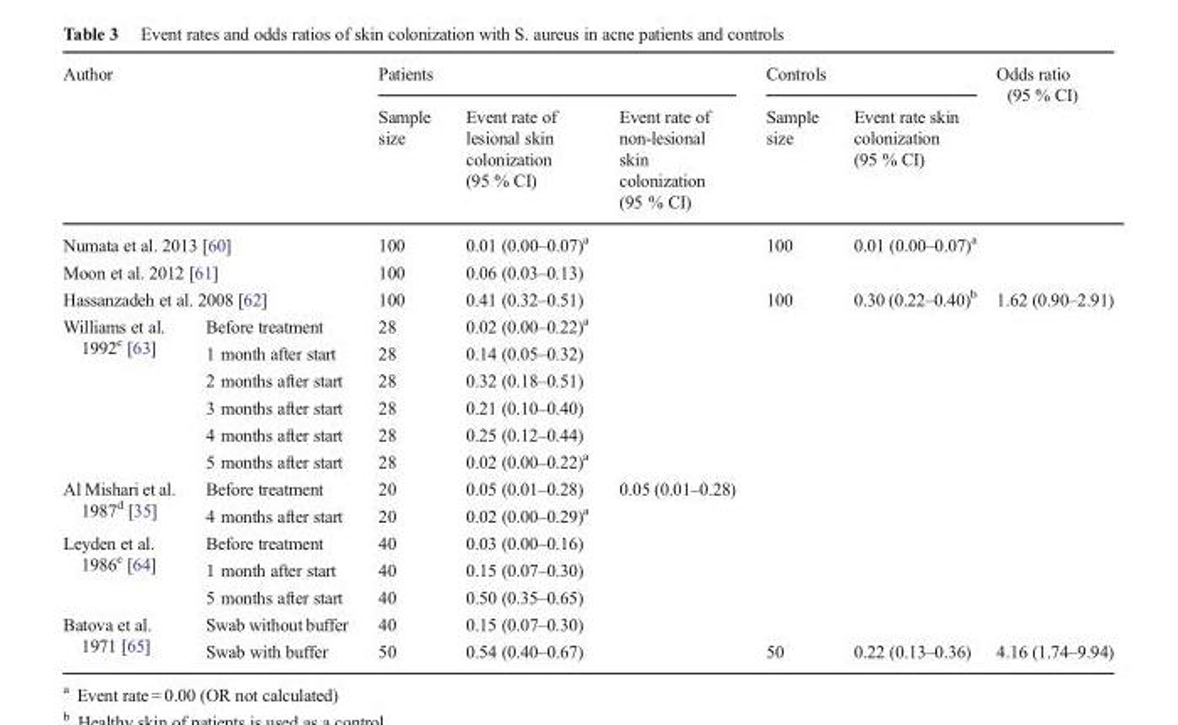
<table><thead><tr><td rowspan="2" colspan="2">Author</td><td colspan="3">Patients</td><td colspan="2">Controls</td><td rowspan="2">Odds ratio (95 % CI)</td></tr><tr><td>Sample size</td><td>Event rate of lesional skin colonization (95 % CI)</td><td>Event rate of non-lesional skin colonization (95 % CI)</td><td>Sample size</td><td>Event rate skin colonization (95 % CI)</td></tr></thead><tbody><tr><td colspan="2">Numata et al. 2013 [60]</td><td>100</td><td>0.01 (0.00–0.07)<sup>a</sup></td><td></td><td>100</td><td>0.01 (0.00–0.07)<sup>a</sup></td><td></td></tr><tr><td colspan="2">Moon et al. 2012 [61]</td><td>100</td><td>0.06 (0.03–0.13)</td><td></td><td></td><td></td><td></td></tr><tr><td colspan="2">Hassanzadeh et al. 2008 [62]</td><td>100</td><td>0.41 (0.32–0.51)</td><td></td><td>100</td><td>0.30 (0.22–0.40)<sup>b</sup></td><td>1.62 (0.90–2.91)</td></tr><tr><td rowspan="6">Williams et al. 1992<sup>c</sup> [63]</td><td>Before treatment</td><td>28</td><td>0.02 (0.00–0.22)<sup>a</sup></td><td></td><td></td><td></td><td></td></tr><tr><td>1 month after start</td><td>28</td><td>0.14 (0.05–0.32)</td><td></td><td></td><td></td><td></td></tr><tr><td>2 months after start</td><td>28</td><td>0.32 (0.18–0.51)</td><td></td><td></td><td></td><td></td></tr><tr><td>3 months after start</td><td>28</td><td>0.21 (0.10–0.40)</td><td></td><td></td><td></td><td></td></tr><tr><td>4 months after start</td><td>28</td><td>0.25 (0.12–0.44)</td><td></td><td></td><td></td><td></td></tr><tr><td>5 months after start</td><td>28</td><td>0.02 (0.00–0.22)<sup>a</sup></td><td></td><td></td><td></td><td></td></tr><tr><td rowspan="2">Al Mishari et al. 1987<sup>d</sup> [35]</td><td>Before treatment</td><td>20</td><td>0.05 (0.01–0.28)</td><td>0.05 (0.01–0.28)</td><td></td><td></td><td></td></tr><tr><td>4 months after start</td><td>20</td><td>0.02 (0.00–0.29)<sup>a</sup></td><td></td><td></td><td></td><td></td></tr><tr><td rowspan="3">Leyden et al. 1986<sup>e</sup> [64]</td><td>Before treatment</td><td>40</td><td>0.03 (0.00–0.16)</td><td></td><td></td><td></td><td></td></tr><tr><td>1 month after start</td><td>40</td><td>0.15 (0.07–0.30)</td><td></td><td></td><td></td><td></td></tr><tr><td>5 months after start</td><td>40</td><td>0.50 (0.35–0.65)</td><td></td><td></td><td></td><td></td></tr><tr><td rowspan="2">Batova et al. 1971 [65]</td><td>Swab without buffer</td><td>40</td><td>0.15 (0.07–0.30)</td><td></td><td></td><td></td><td></td></tr><tr><td>Swab with buffer</td><td>50</td><td>0.54 (0.40–0.67)</td><td></td><td>50</td><td>0.22 (0.13–0.36)</td><td>4.16 (1.74–9.94)</td></tr></tbody></table>